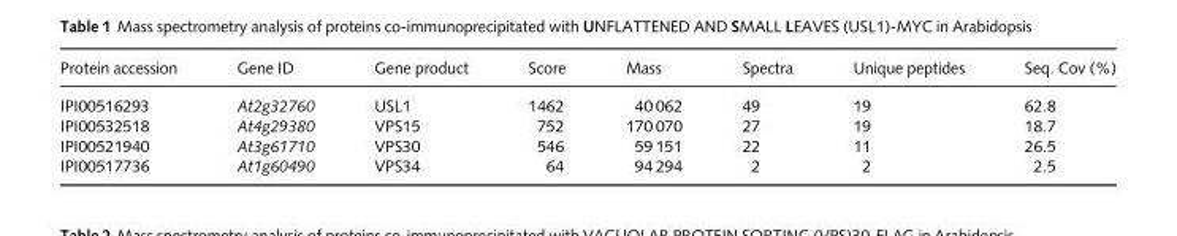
<table><thead><tr><td>Protein accession</td><td>Gene ID</td><td>Gene product</td><td>Score</td><td>Mass</td><td>Spectra</td><td>Unique peptides</td><td>Seq. Cov (%)</td></tr></thead><tbody><tr><td>IPI00516293</td><td>At2g32760</td><td>USL1</td><td>1462</td><td>40 062</td><td>49</td><td>19</td><td>62.8</td></tr><tr><td>IPI00532518</td><td>At4g29380</td><td>VPS15</td><td>752</td><td>170 070</td><td>27</td><td>19</td><td>18.7</td></tr><tr><td>IPI00521940</td><td>At3g61710</td><td>VPS30</td><td>546</td><td>59 151</td><td>22</td><td>11</td><td>26.5</td></tr><tr><td>IPI00517736</td><td>At1g60490</td><td>VPS34</td><td>64</td><td>94 294</td><td>2</td><td>2</td><td>2.5</td></tr></tbody></table>